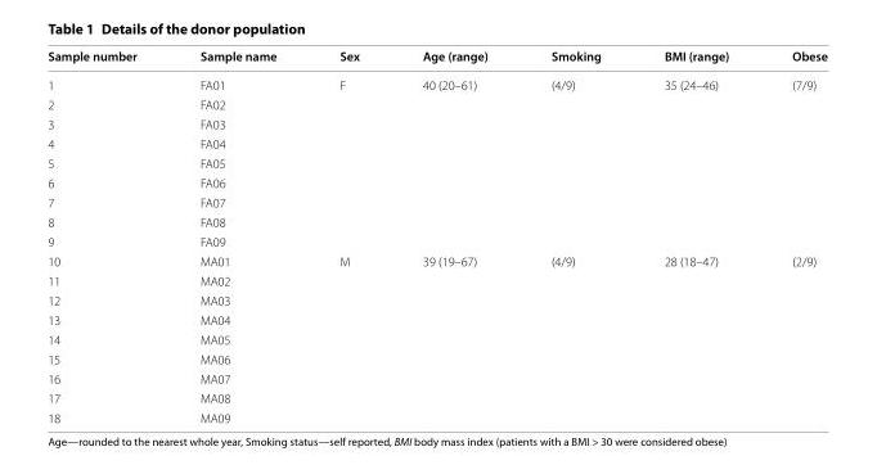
<table><thead><tr><td>Sample number</td><td>Sample name</td><td>Sex</td><td>Age (range)</td><td>Smoking</td><td>BMI (range)</td><td>Obese</td></tr></thead><tbody><tr><td>1</td><td>FA01</td><td rowspan="9">F</td><td rowspan="9">40 (20–61)</td><td rowspan="9">(4/9)</td><td rowspan="9">35 (24–46)</td><td rowspan="9">(7/9)</td></tr><tr><td>2</td><td>FA02</td></tr><tr><td>3</td><td>FA03</td></tr><tr><td>4</td><td>FA04</td></tr><tr><td>5</td><td>FA05</td></tr><tr><td>6</td><td>FA06</td></tr><tr><td>7</td><td>FA07</td></tr><tr><td>8</td><td>FA08</td></tr><tr><td>9</td><td>FA09</td></tr><tr><td>10</td><td>MA01</td><td rowspan="9">M</td><td rowspan="9">39 (19–67)</td><td rowspan="9">(4/9)</td><td rowspan="9">28 (18–47)</td><td rowspan="9">(2/9)</td></tr><tr><td>11</td><td>MA02</td></tr><tr><td>12</td><td>MA03</td></tr><tr><td>13</td><td>MA04</td></tr><tr><td>14</td><td>MA05</td></tr><tr><td>15</td><td>MA06</td></tr><tr><td>16</td><td>MA07</td></tr><tr><td>17</td><td>MA08</td></tr><tr><td>18</td><td>MA09</td></tr></tbody></table>